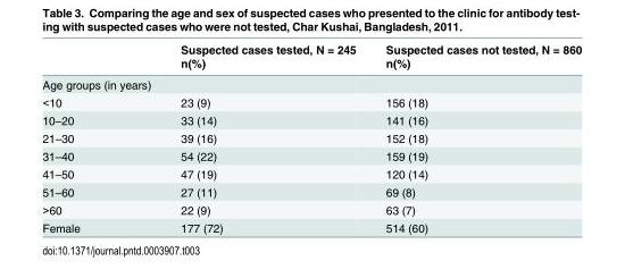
<table><thead><tr><td rowspan="2"></td><td rowspan="2">Suspected cases tested, N = 245 n(%)</td><td rowspan="2">Suspected cases not tested, N = 860 n(%)</td></tr><tr></tr></thead><tbody><tr><td colspan="3">Age groups (in years)</td></tr><tr><td>&lt;10</td><td>23 (9)</td><td>156 (18)</td></tr><tr><td>10–20</td><td>33 (14)</td><td>141 (16)</td></tr><tr><td>21–30</td><td>39 (16)</td><td>152 (18)</td></tr><tr><td>31–40</td><td>54 (22)</td><td>159 (19)</td></tr><tr><td>41–50</td><td>47 (19)</td><td>120 (14)</td></tr><tr><td>51–60</td><td>27 (11)</td><td>69 (8)</td></tr><tr><td>&gt;60</td><td>22 (9)</td><td>63 (7)</td></tr><tr><td>Female</td><td>177 (72)</td><td>514 (60)</td></tr></tbody></table>